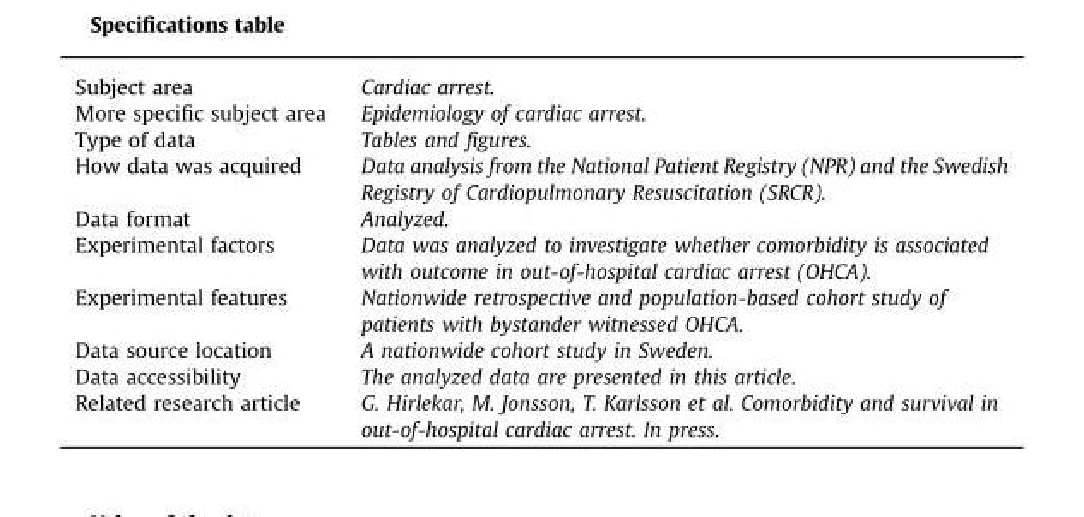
<table><tbody><tr><td>Subject area</td><td>Cardiac arrest.</td></tr><tr><td>More specific subject area</td><td>Epidemiology of cardiac arrest.</td></tr><tr><td>Type of data</td><td>Tables and figures.</td></tr><tr><td>How data was acquired</td><td>Data analysis from the National Patient Registry (NPR) and the Swedish Registry of Cardiopulmonary Resuscitation (SRCR).</td></tr><tr><td>Data format</td><td>Analyzed.</td></tr><tr><td>Experimental factors</td><td>Data was analyzed to investigate whether comorbidity is associated with outcome in out-of-hospital cardiac arrest (OHCA).</td></tr><tr><td>Experimental features</td><td>Nationwide retrospective and population-based cohort study of patients with bystander witnessed OHCA.</td></tr><tr><td>Data source location</td><td>A nationwide cohort study in Sweden.</td></tr><tr><td>Data accessibility</td><td>The analyzed data are presented in this article.</td></tr><tr><td>Related research article</td><td>G. Hirlekar, M. Jonsson, T. Karlsson et al. Comorbidity and survival in out-of-hospital cardiac arrest. In press.</td></tr></tbody></table>